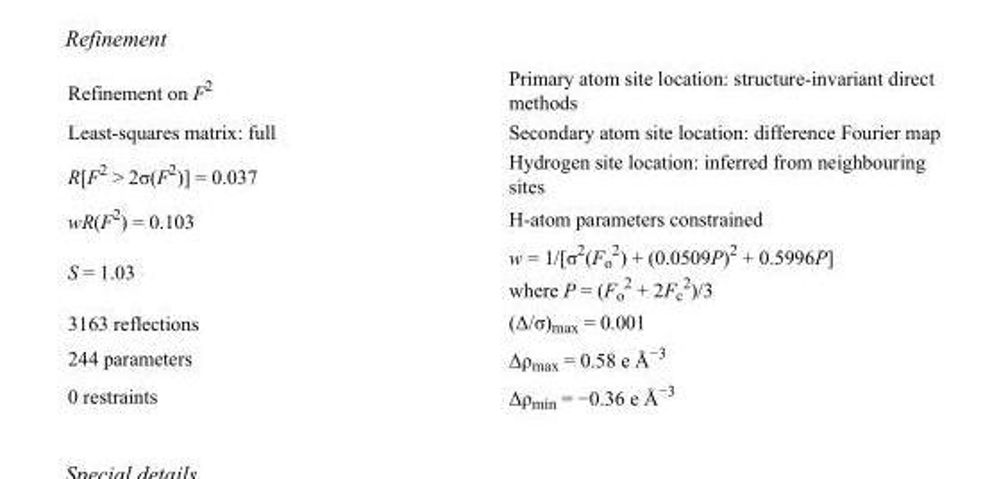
<table><tbody><tr><td>Refinement on F<sup>2</sup></td><td>Primary atom site location: structure-invariant direct methods</td></tr><tr><td>Least-squares matrix: full</td><td>Secondary atom site location: difference Fourier map</td></tr><tr><td>R[F<sup>2</sup> &gt; 2σ(F<sup>2</sup>)] = 0.037</td><td>Hydrogen site location: inferred from neighbouring sites</td></tr><tr><td>wR(F<sup>2</sup>) = 0.103</td><td>H-atom parameters constrained</td></tr><tr><td>S = 1.03</td><td>w = 1/[σ<sup>2</sup>(F<sub>o</sub> <sup>2</sup>) + (0.0509P)<sup>2</sup> + 0.5996P] where P = (F<sub>o</sub> <sup>2</sup> + 2F<sub>c</sub> <sup>2</sup>)/3</td></tr><tr><td>3163 reflections</td><td>(Δ/σ)<sub>max</sub> = 0.001</td></tr><tr><td>244 parameters</td><td>Δρ<sub>max</sub> = 0.58 e Å<sup>−3</sup></td></tr><tr><td>0 restraints</td><td>Δρmin = −0.36 e Å−3</td></tr></tbody></table>